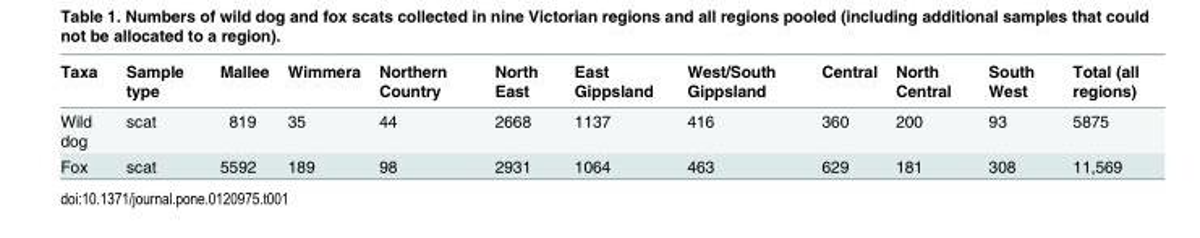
<table><thead><tr><td>Taxa</td><td>Sample type</td><td>Mallee</td><td>Wimmera</td><td>Northern Country</td><td>North East</td><td>East Gippsland</td><td>West/South Gippsland</td><td>Central</td><td>North Central</td><td>South West</td><td>Total (all regions)</td></tr></thead><tbody><tr><td>Wild dog</td><td>scat</td><td>819</td><td>35</td><td>44</td><td>2668</td><td>1137</td><td>416</td><td>360</td><td>200</td><td>93</td><td>5875</td></tr><tr><td>Fox</td><td>scat</td><td>5592</td><td>189</td><td>98</td><td>2931</td><td>1064</td><td>463</td><td>629</td><td>181</td><td>308</td><td>11,569</td></tr></tbody></table>